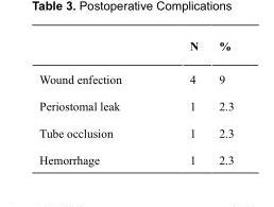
<table><thead><tr><td></td><td>N</td><td>%</td></tr></thead><tbody><tr><td>Wound enfection</td><td>4</td><td>9</td></tr><tr><td>Periostomal leak</td><td>1</td><td>2.3</td></tr><tr><td>Tube occlusion</td><td>1</td><td>2.3</td></tr><tr><td>Hemorrhage</td><td>1</td><td>2.3</td></tr></tbody></table>